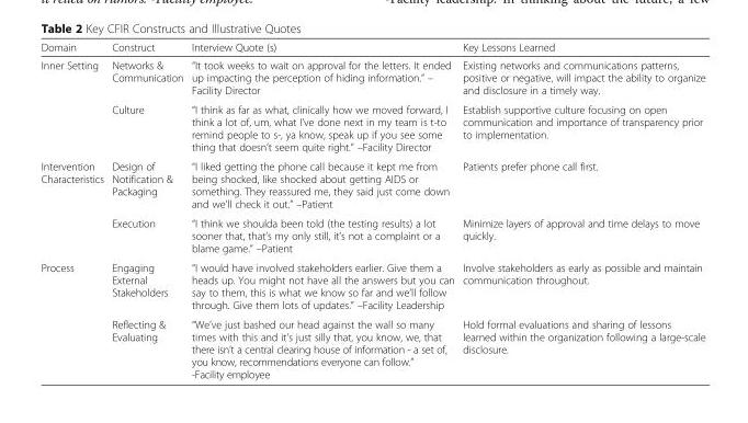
<table><thead><tr><td>Domain</td><td>Construct</td><td>Interview Quote (s)</td><td>Key Lessons Learned</td></tr></thead><tbody><tr><td rowspan="2">Inner Setting</td><td>Networks &amp; Communication</td><td>“It took weeks to wait on approval for the letters. It ended up impacting the perception of hiding information.” – Facility Director</td><td>Existing networks and communications patterns, positive or negative, will impact the ability to organize and disclosure in a timely way.</td></tr><tr><td>Culture</td><td>“I think as far as what, clinically how we moved forward, I think a lot of, um, what I’ve done next in my team is t-to remind people to s-, ya know, speak up if you see some thing that doesn’t seem quite right.” –Facility Director</td><td>Establish supportive culture focusing on open communication and importance of transparency prior to implementation.</td></tr><tr><td rowspan="2">Intervention Characteristics</td><td>Design of Notification &amp; Packaging</td><td>“I liked getting the phone call because it kept me from being shocked, like shocked about getting AIDS or something. They reassured me, they said just come down and we’ll check it out.” –Patient</td><td>Patients prefer phone call first.</td></tr><tr><td>Execution</td><td>“I think we shoulda been told (the testing results) a lot sooner that, that’s my only still, it’s not a complaint or a blame game.” –Patient</td><td>Minimize layers of approval and time delays to move quickly.</td></tr><tr><td rowspan="2">Process</td><td>Engaging External Stakeholders</td><td>“I would have involved stakeholders earlier. Give them a heads up. You might not have all the answers but you can say to them, this is what we know so far and we’ll follow through. Give them lots of updates.” –Facility Leadership</td><td>Involve stakeholders as early as possible and maintain communication throughout.</td></tr><tr><td>Reflecting &amp; Evaluating</td><td>“We’ve just bashed our head against the wall so many times with this and it’s just silly that, you know, we, that there isn’t a central clearing house of information - a set of, you know, recommendations everyone can follow.” -Facility employee</td><td>Hold formal evaluations and sharing of lessons learned within the organization following a large-scale disclosure.</td></tr></tbody></table>